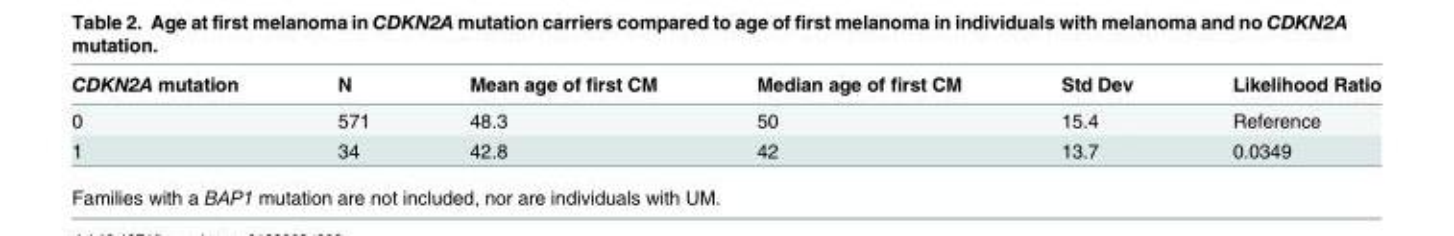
<table><thead><tr><td>CDKN2A mutation</td><td>N</td><td>Mean age of first CM</td><td>Median age of first CM</td><td>Std Dev</td><td>Likelihood Ratio</td></tr></thead><tbody><tr><td>0</td><td>571</td><td>48.3</td><td>50</td><td>15.4</td><td>Reference</td></tr><tr><td>1</td><td>34</td><td>42.8</td><td>42</td><td>13.7</td><td>0.0349</td></tr></tbody></table>